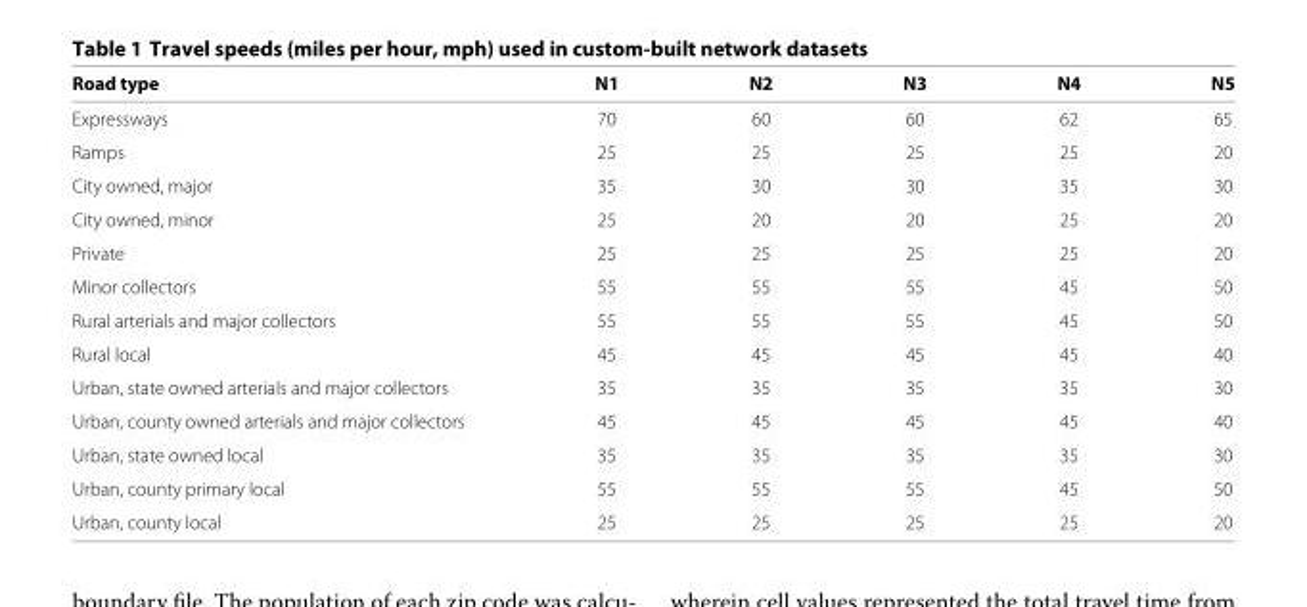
<table><thead><tr><td>Road type</td><td>N1</td><td>N2</td><td>N3</td><td>N4</td><td>N5</td></tr></thead><tbody><tr><td>Expressways</td><td>70</td><td>60</td><td>60</td><td>62</td><td>65</td></tr><tr><td>Ramps</td><td>25</td><td>25</td><td>25</td><td>25</td><td>20</td></tr><tr><td>City owned, major</td><td>35</td><td>30</td><td>30</td><td>35</td><td>30</td></tr><tr><td>City owned, minor</td><td>25</td><td>20</td><td>20</td><td>25</td><td>20</td></tr><tr><td>Private</td><td>25</td><td>25</td><td>25</td><td>25</td><td>20</td></tr><tr><td>Minor collectors</td><td>55</td><td>55</td><td>55</td><td>45</td><td>50</td></tr><tr><td>Rural arterials and major collectors</td><td>55</td><td>55</td><td>55</td><td>45</td><td>50</td></tr><tr><td>Rural local</td><td>45</td><td>45</td><td>45</td><td>45</td><td>40</td></tr><tr><td>Urban, state owned arterials and major collectors</td><td>35</td><td>35</td><td>35</td><td>35</td><td>30</td></tr><tr><td>Urban, county owned arterials and major collectors</td><td>45</td><td>45</td><td>45</td><td>45</td><td>40</td></tr><tr><td>Urban, state owned local</td><td>35</td><td>35</td><td>35</td><td>35</td><td>30</td></tr><tr><td>Urban, county primary local</td><td>55</td><td>55</td><td>55</td><td>45</td><td>50</td></tr><tr><td>Urban, county local</td><td>25</td><td>25</td><td>25</td><td>25</td><td>20</td></tr></tbody></table>